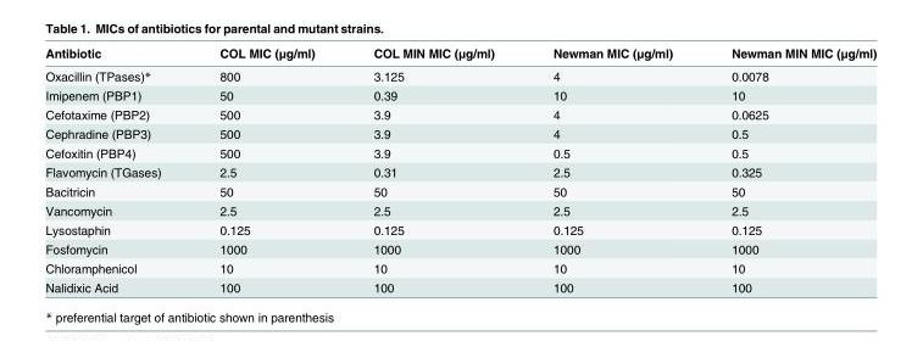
<table><thead><tr><td>Antibiotic</td><td>COL MIC (μg/ml)</td><td>COL MIN MIC (μg/ml)</td><td>Newman MIC (μg/ml)</td><td>Newman MIN MIC (μg/ml)</td></tr></thead><tbody><tr><td>Oxacillin (TPases)*</td><td>800</td><td>3.125</td><td>4</td><td>0.0078</td></tr><tr><td>Imipenem (PBP1)</td><td>50</td><td>0.39</td><td>10</td><td>10</td></tr><tr><td>Cefotaxime (PBP2)</td><td>500</td><td>3.9</td><td>4</td><td>0.0625</td></tr><tr><td>Cephradine (PBP3)</td><td>500</td><td>3.9</td><td>4</td><td>0.5</td></tr><tr><td>Cefoxitin (PBP4)</td><td>500</td><td>3.9</td><td>0.5</td><td>0.5</td></tr><tr><td>Flavomycin (TGases)</td><td>2.5</td><td>0.31</td><td>2.5</td><td>0.325</td></tr><tr><td>Bacitricin</td><td>50</td><td>50</td><td>50</td><td>50</td></tr><tr><td>Vancomycin</td><td>2.5</td><td>2.5</td><td>2.5</td><td>2.5</td></tr><tr><td>Lysostaphin</td><td>0.125</td><td>0.125</td><td>0.125</td><td>0.125</td></tr><tr><td>Fosfomycin</td><td>1000</td><td>1000</td><td>1000</td><td>1000</td></tr><tr><td>Chloramphenicol</td><td>10</td><td>10</td><td>10</td><td>10</td></tr><tr><td>Nalidixic Acid</td><td>100</td><td>100</td><td>100</td><td>100</td></tr></tbody></table>